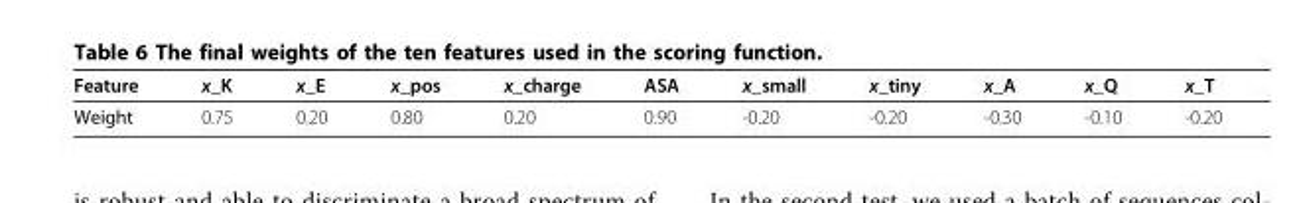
<table><thead><tr><td>Feature</td><td>x_K</td><td>x_E</td><td>x_pos</td><td>x_charge</td><td>ASA</td><td>x_small</td><td>x_tiny</td><td>x_A</td><td>x_Q</td><td>x_T</td></tr></thead><tbody><tr><td>Weight</td><td>0.75</td><td>0.20</td><td>0.80</td><td>0.20</td><td>0.90</td><td>-0.20</td><td>-0.20</td><td>-0.30</td><td>-0.10</td><td>-0.20</td></tr></tbody></table>